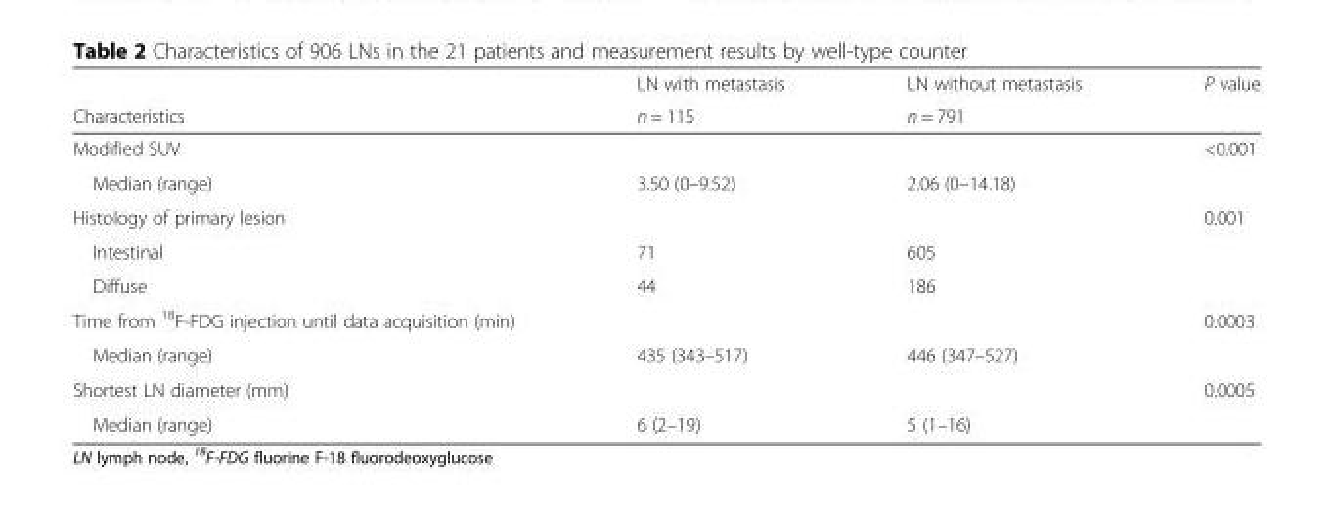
<table><thead><tr><td rowspan="2">Characteristics</td><td rowspan="2">LN with metastasis n = 115</td><td rowspan="2">LN without metastasis n = 791</td><td rowspan="2">P value</td></tr><tr></tr></thead><tbody><tr><td>Modified SUV</td><td></td><td></td><td>&lt;0.001</td></tr><tr><td>Median (range)</td><td>3.50 (0–9.52)</td><td>2.06 (0–14.18)</td><td></td></tr><tr><td>Histology of primary lesion</td><td></td><td></td><td>0.001</td></tr><tr><td>Intestinal</td><td>71</td><td>605</td><td></td></tr><tr><td>Diffuse</td><td>44</td><td>186</td><td></td></tr><tr><td>Time from <sup>18</sup>F-FDG injection until data acquisition (min)</td><td></td><td></td><td>0.0003</td></tr><tr><td>Median (range)</td><td>435 (343–517)</td><td>446 (347–527)</td><td></td></tr><tr><td>Shortest LN diameter (mm)</td><td></td><td></td><td>0.0005</td></tr><tr><td>Median (range)</td><td>6 (2–19)</td><td>5 (1–16)</td><td></td></tr></tbody></table>